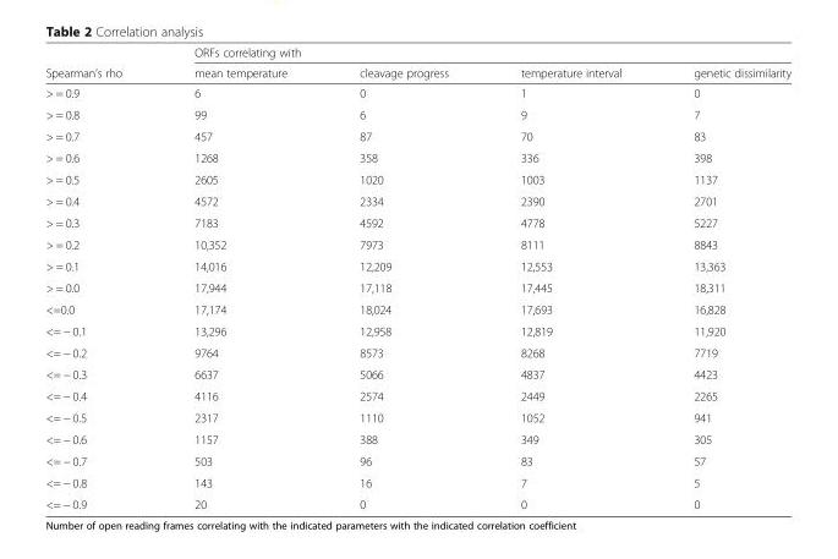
<table><thead><tr><td rowspan="2">Spearman’s rho</td><td colspan="4">ORFs correlating with</td></tr><tr><td>mean temperature</td><td>cleavage progress</td><td>temperature interval</td><td>genetic dissimilarity</td></tr></thead><tbody><tr><td>&gt; = 0.9</td><td>6</td><td>0</td><td>1</td><td>0</td></tr><tr><td>&gt; = 0.8</td><td>99</td><td>6</td><td>9</td><td>7</td></tr><tr><td>&gt; = 0.7</td><td>457</td><td>87</td><td>70</td><td>83</td></tr><tr><td>&gt; = 0.6</td><td>1268</td><td>358</td><td>336</td><td>398</td></tr><tr><td>&gt; = 0.5</td><td>2605</td><td>1020</td><td>1003</td><td>1137</td></tr><tr><td>&gt; = 0.4</td><td>4572</td><td>2334</td><td>2390</td><td>2701</td></tr><tr><td>&gt; = 0.3</td><td>7183</td><td>4592</td><td>4778</td><td>5227</td></tr><tr><td>&gt; = 0.2</td><td>10,352</td><td>7973</td><td>8111</td><td>8843</td></tr><tr><td>&gt; = 0.1</td><td>14,016</td><td>12,209</td><td>12,553</td><td>13,363</td></tr><tr><td>&gt; = 0.0</td><td>17,944</td><td>17,118</td><td>17,445</td><td>18,311</td></tr><tr><td>&lt;=0.0</td><td>17,174</td><td>18,024</td><td>17,693</td><td>16,828</td></tr><tr><td>&lt;= − 0.1</td><td>13,296</td><td>12,958</td><td>12,819</td><td>11,920</td></tr><tr><td>&lt;= − 0.2</td><td>9764</td><td>8573</td><td>8268</td><td>7719</td></tr><tr><td>&lt;= − 0.3</td><td>6637</td><td>5066</td><td>4837</td><td>4423</td></tr><tr><td>&lt;= − 0.4</td><td>4116</td><td>2574</td><td>2449</td><td>2265</td></tr><tr><td>&lt;= − 0.5</td><td>2317</td><td>1110</td><td>1052</td><td>941</td></tr><tr><td>&lt;= − 0.6</td><td>1157</td><td>388</td><td>349</td><td>305</td></tr><tr><td>&lt;= − 0.7</td><td>503</td><td>96</td><td>83</td><td>57</td></tr><tr><td>&lt;= − 0.8</td><td>143</td><td>16</td><td>7</td><td>5</td></tr><tr><td>&lt;= − 0.9</td><td>20</td><td>0</td><td>0</td><td>0</td></tr></tbody></table>